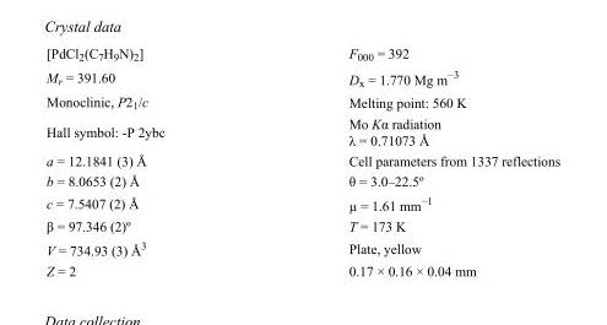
<table><tbody><tr><td>[PdCl<sub>2</sub>(C<sub>7</sub>H<sub>9</sub>N)<sub>2</sub>]</td><td>F000 = 392</td></tr><tr><td>M<sub>r</sub> = 391.60</td><td>D<sub>x</sub> = 1.770 Mg m<sup>−3</sup></td></tr><tr><td>Monoclinic, P2<sub>1</sub>/c</td><td>Melting point: 560 K</td></tr><tr><td>Hall symbol: -P 2ybc</td><td>Mo Kα radiation λ = 0.71073 Å</td></tr><tr><td>a = 12.1841 (3) Å</td><td>Cell parameters from 1337 reflections</td></tr><tr><td>b = 8.0653 (2) Å</td><td>θ = 3.0–22.5º</td></tr><tr><td>c = 7.5407 (2) Å</td><td>µ = 1.61 mm<sup>−1</sup></td></tr><tr><td>β = 97.346 (2)º</td><td>T = 173 K</td></tr><tr><td>V = 734.93 (3) Å<sup>3</sup></td><td>Plate, yellow</td></tr><tr><td>Z = 2</td><td>0.17 × 0.16 × 0.04 mm</td></tr></tbody></table>